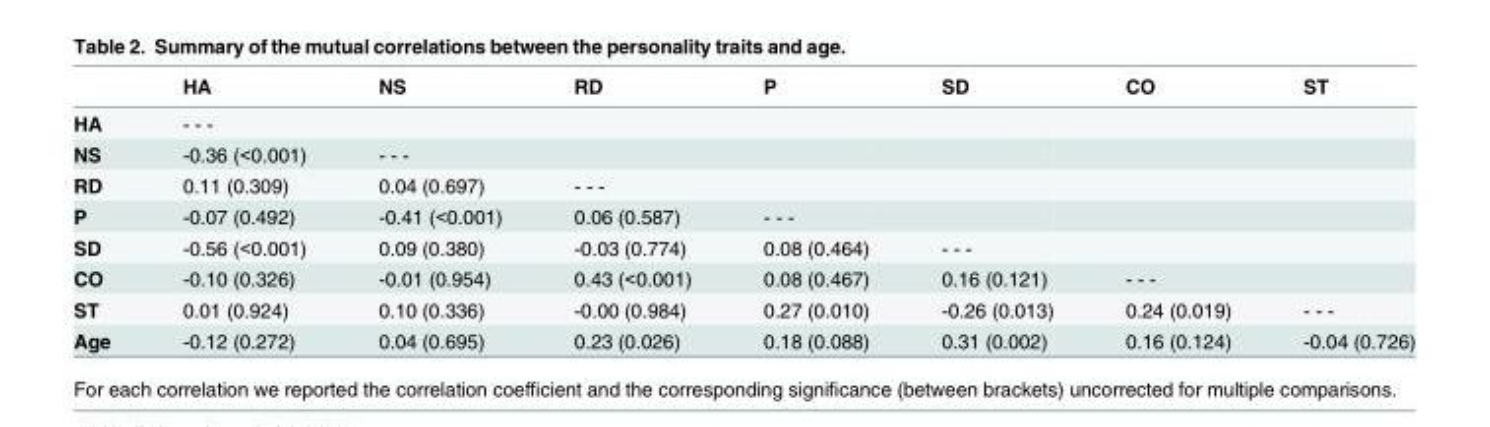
<table><thead><tr><td></td><td>HA</td><td>NS</td><td>RD</td><td>P</td><td>SD</td><td>CO</td><td>ST</td></tr></thead><tbody><tr><td>HA</td><td>- - -</td><td></td><td></td><td></td><td></td><td></td><td></td></tr><tr><td>NS</td><td>-0.36 (&lt;0.001)</td><td>- - -</td><td></td><td></td><td></td><td></td><td></td></tr><tr><td>RD</td><td>0.11 (0.309)</td><td>0.04 (0.697)</td><td>- - -</td><td></td><td></td><td></td><td></td></tr><tr><td>P</td><td>-0.07 (0.492)</td><td>-0.41 (&lt;0.001)</td><td>0.06 (0.587)</td><td>- - -</td><td></td><td></td><td></td></tr><tr><td>SD</td><td>-0.56 (&lt;0.001)</td><td>0.09 (0.380)</td><td>-0.03 (0.774)</td><td>0.08 (0.464)</td><td>- - -</td><td></td><td></td></tr><tr><td>CO</td><td>-0.10 (0.326)</td><td>-0.01 (0.954)</td><td>0.43 (&lt;0.001)</td><td>0.08 (0.467)</td><td>0.16 (0.121)</td><td>- - -</td><td></td></tr><tr><td>ST</td><td>0.01 (0.924)</td><td>0.10 (0.336)</td><td>-0.00 (0.984)</td><td>0.27 (0.010)</td><td>-0.26 (0.013)</td><td>0.24 (0.019)</td><td>- - -</td></tr><tr><td>Age</td><td>-0.12 (0.272)</td><td>0.04 (0.695)</td><td>0.23 (0.026)</td><td>0.18 (0.088)</td><td>0.31 (0.002)</td><td>0.16 (0.124)</td><td>-0.04 (0.726)</td></tr></tbody></table>